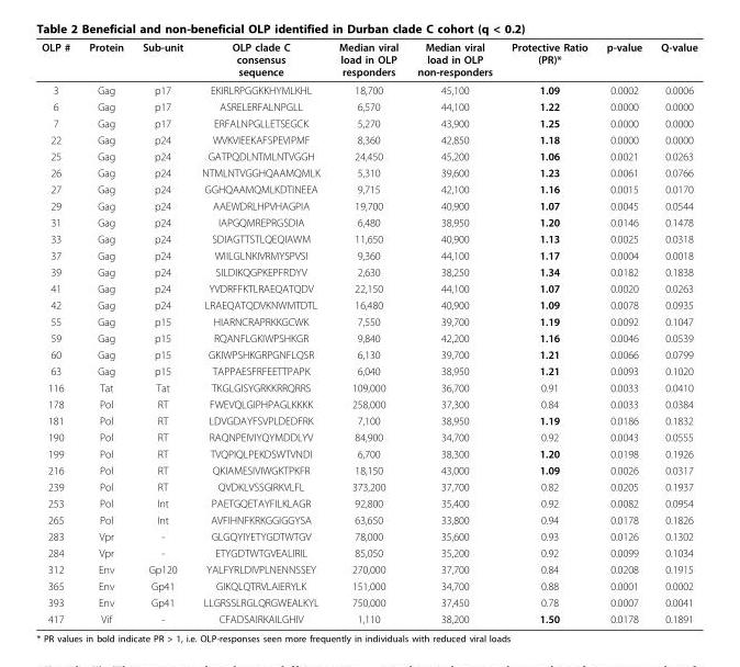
<table><thead><tr><td>OLP #</td><td>Protein</td><td>Sub-unit</td><td>OLP clade C consensus sequence</td><td>Median viral load in OLP responders</td><td>Median viral load in OLP non-responders</td><td>Protective Ratio (PR)*</td><td>p-value</td><td>Q-value</td></tr></thead><tbody><tr><td>3</td><td>Gag</td><td>p17</td><td>EKIRLRPGGKKHYMLKHL</td><td>18,700</td><td>45,100</td><td>1.09</td><td>0.0002</td><td>0.0006</td></tr><tr><td>6</td><td>Gag</td><td>p17</td><td>ASRELERFALNPGLL</td><td>6,570</td><td>44,100</td><td>1.22</td><td>0.0000</td><td>0.0000</td></tr><tr><td>7</td><td>Gag</td><td>p17</td><td>ERFALNPGLLETSEGCK</td><td>5,270</td><td>43,900</td><td>1.25</td><td>0.0000</td><td>0.0000</td></tr><tr><td>22</td><td>Gag</td><td>p24</td><td>WVKVIEEKAFSPEVIPMF</td><td>8,360</td><td>42,850</td><td>1.18</td><td>0.0000</td><td>0.0000</td></tr><tr><td>25</td><td>Gag</td><td>p24</td><td>GATPQDLNTMLNTVGGH</td><td>24,450</td><td>45,200</td><td>1.06</td><td>0.0021</td><td>0.0263</td></tr><tr><td>26</td><td>Gag</td><td>p24</td><td>NTMLNTVGGHQAAMQMLK</td><td>5,310</td><td>39,600</td><td>1.23</td><td>0.0061</td><td>0.0766</td></tr><tr><td>27</td><td>Gag</td><td>p24</td><td>GGHQAAMQMLKDTINEEA</td><td>9,715</td><td>42,100</td><td>1.16</td><td>0.0015</td><td>0.0170</td></tr><tr><td>29</td><td>Gag</td><td>p24</td><td>AAEWDRLHPVHAGPIA</td><td>19,700</td><td>40,900</td><td>1.07</td><td>0.0045</td><td>0.0544</td></tr><tr><td>31</td><td>Gag</td><td>p24</td><td>IAPGQMREPRGSDIA</td><td>6,480</td><td>38,950</td><td>1.20</td><td>0.0146</td><td>0.1478</td></tr><tr><td>33</td><td>Gag</td><td>p24</td><td>SDIAGTTSTLQEQIAWM</td><td>11,650</td><td>40,900</td><td>1.13</td><td>0.0025</td><td>0.0318</td></tr><tr><td>37</td><td>Gag</td><td>p24</td><td>WIILGLNKIVRMYSPVSI</td><td>9,360</td><td>44,100</td><td>1.17</td><td>0.0004</td><td>0.0018</td></tr><tr><td>39</td><td>Gag</td><td>p24</td><td>SILDIKQGPKEPFRDYV</td><td>2,630</td><td>38,250</td><td>1.34</td><td>0.0182</td><td>0.1838</td></tr><tr><td>41</td><td>Gag</td><td>p24</td><td>YVDRFFKTLRAEQATQDV</td><td>22,150</td><td>44,100</td><td>1.07</td><td>0.0020</td><td>0.0263</td></tr><tr><td>42</td><td>Gag</td><td>p24</td><td>LRAEQATQDVKNWMTDTL</td><td>16,480</td><td>40,900</td><td>1.09</td><td>0.0078</td><td>0.0935</td></tr><tr><td>55</td><td>Gag</td><td>p15</td><td>HIARNCRAPRKKGCWK</td><td>7,550</td><td>39,700</td><td>1.19</td><td>0.0092</td><td>0.1047</td></tr><tr><td>59</td><td>Gag</td><td>p15</td><td>RQANFLGKIWPSHKGR</td><td>9,840</td><td>42,200</td><td>1.16</td><td>0.0046</td><td>0.0539</td></tr><tr><td>60</td><td>Gag</td><td>p15</td><td>GKIWPSHKGRPGNFLQSR</td><td>6,130</td><td>39,700</td><td>1.21</td><td>0.0066</td><td>0.0799</td></tr><tr><td>63</td><td>Gag</td><td>p15</td><td>TAPPAESFRFEETTPAPK</td><td>6,040</td><td>38,950</td><td>1.21</td><td>0.0093</td><td>0.1020</td></tr><tr><td>116</td><td>Tat</td><td>Tat</td><td>TKGLGISYGRKKRRQRRS</td><td>109,000</td><td>36,700</td><td>0.91</td><td>0.0033</td><td>0.0410</td></tr><tr><td>178</td><td>Pol</td><td>RT</td><td>FWEVQLGIPHPAGLKKKK</td><td>258,000</td><td>37,300</td><td>0.84</td><td>0.0033</td><td>0.0384</td></tr><tr><td>181</td><td>Pol</td><td>RT</td><td>LDVGDAYFSVPLDEDFRK</td><td>7,100</td><td>38,950</td><td>1.19</td><td>0.0186</td><td>0.1832</td></tr><tr><td>190</td><td>Pol</td><td>RT</td><td>RAQNPEIVIYQYMDDLYV</td><td>84,900</td><td>34,700</td><td>0.92</td><td>0.0043</td><td>0.0555</td></tr><tr><td>199</td><td>Pol</td><td>RT</td><td>TVQPIQLPEKDSWTVNDI</td><td>6,700</td><td>38,300</td><td>1.20</td><td>0.0198</td><td>0.1926</td></tr><tr><td>216</td><td>Pol</td><td>RT</td><td>QKIAMESIVIWGKTPKFR</td><td>18,150</td><td>43,000</td><td>1.09</td><td>0.0026</td><td>0.0317</td></tr><tr><td>239</td><td>Pol</td><td>RT</td><td>QVDKLVSSGIRKVLFL</td><td>373,200</td><td>37,700</td><td>0.82</td><td>0.0205</td><td>0.1937</td></tr><tr><td>253</td><td>Pol</td><td>Int</td><td>PAETGQETAYFILKLAGR</td><td>92,800</td><td>35,400</td><td>0.92</td><td>0.0082</td><td>0.0954</td></tr><tr><td>265</td><td>Pol</td><td>Int</td><td>AVFIHNFKRKGGIGGYSA</td><td>63,650</td><td>33,800</td><td>0.94</td><td>0.0178</td><td>0.1826</td></tr><tr><td>283</td><td>Vpr</td><td>-</td><td>GLGQYIYETYGDTWTGV</td><td>78,000</td><td>35,600</td><td>0.93</td><td>0.0126</td><td>0.1302</td></tr><tr><td>284</td><td>Vpr</td><td>-</td><td>ETYGDTWTGVEALIRIL</td><td>85,050</td><td>35,200</td><td>0.92</td><td>0.0099</td><td>0.1034</td></tr><tr><td>312</td><td>Env</td><td>Gp120</td><td>YALFYRLDIVPLNENNSSEY</td><td>270,000</td><td>37,700</td><td>0.84</td><td>0.0208</td><td>0.1915</td></tr><tr><td>365</td><td>Env</td><td>Gp41</td><td>GIKQLQTRVLAIERYLK</td><td>151,000</td><td>34,700</td><td>0.88</td><td>0.0001</td><td>0.0002</td></tr><tr><td>393</td><td>Env</td><td>Gp41</td><td>LLGRSSLRGLQRGWEALKYL</td><td>750,000</td><td>37,450</td><td>0.78</td><td>0.0007</td><td>0.0041</td></tr><tr><td>417</td><td>Vif</td><td>-</td><td>CFADSAIRKAILGHIV</td><td>1,110</td><td>38,200</td><td>1.50</td><td>0.0178</td><td>0.1891</td></tr></tbody></table>